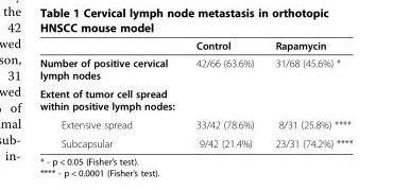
<table><thead><tr><td></td><td>Control</td><td>Rapamycin</td></tr></thead><tbody><tr><td>Number of positive cervical lymph nodes</td><td>42/66 (63.6%)</td><td>31/68 (45.6%) *</td></tr><tr><td colspan="3">Extent of tumor cell spread within positive lymph nodes:</td></tr><tr><td>Extensive spread</td><td>33/42 (78.6%)</td><td>8/31 (25.8%) ****</td></tr><tr><td>Subcapsular</td><td>9/42 (21.4%)</td><td>23/31 (74.2%) ****</td></tr></tbody></table>